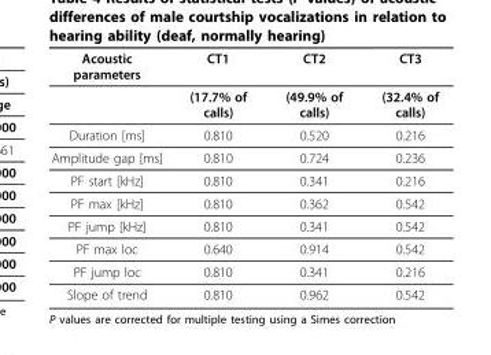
<table><thead><tr><td>Acoustic parameters</td><td>CT1</td><td>CT2</td><td>CT3</td></tr></thead><tbody><tr><td></td><td>(17.7% of calls)</td><td>(49.9% of calls)</td><td>(32.4% of calls)</td></tr><tr><td>Duration [ms]</td><td>0.810</td><td>0.520</td><td>0.216</td></tr><tr><td>Amplitude gap [ms]</td><td>0.810</td><td>0.724</td><td>0.236</td></tr><tr><td>PF start [kHz]</td><td>0.810</td><td>0.341</td><td>0.216</td></tr><tr><td>PF max [kHz]</td><td>0.810</td><td>0.362</td><td>0.542</td></tr><tr><td>PF jump [kHz]</td><td>0.810</td><td>0.341</td><td>0.542</td></tr><tr><td>PF max loc</td><td>0.640</td><td>0.914</td><td>0.542</td></tr><tr><td>PF jump loc</td><td>0.810</td><td>0.341</td><td>0.216</td></tr><tr><td>Slope of trend</td><td>0.810</td><td>0.962</td><td>0.542</td></tr></tbody></table>